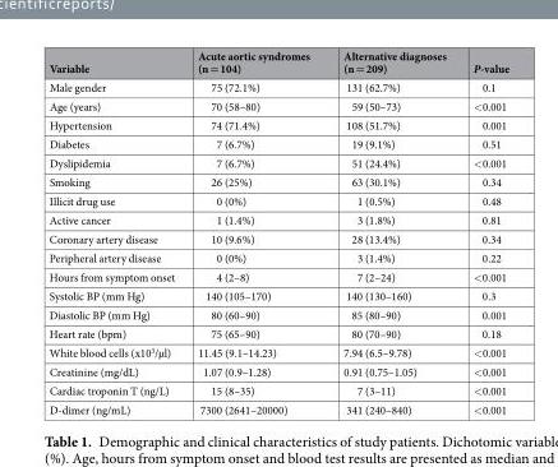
<table><thead><tr><td>Variable</td><td>Acute aortic syndromes (n = 104)</td><td>Alternative diagnoses (n = 209)</td><td>P-value</td></tr></thead><tbody><tr><td>Male gender</td><td>75 (72.1%)</td><td>131 (62.7%)</td><td>0.1</td></tr><tr><td>Age (years)</td><td>70 (58–80)</td><td>59 (50–73)</td><td>&lt;0.001</td></tr><tr><td>Hypertension</td><td>74 (71.4%)</td><td>108 (51.7%)</td><td>0.001</td></tr><tr><td>Diabetes</td><td>7 (6.7%)</td><td>19 (9.1%)</td><td>0.51</td></tr><tr><td>Dyslipidemia</td><td>7 (6.7%)</td><td>51 (24.4%)</td><td>&lt;0.001</td></tr><tr><td>Smoking</td><td>26 (25%)</td><td>63 (30.1%)</td><td>0.34</td></tr><tr><td>Illicit drug use</td><td>0 (0%)</td><td>1 (0.5%)</td><td>0.48</td></tr><tr><td>Active cancer</td><td>1 (1.4%)</td><td>3 (1.8%)</td><td>0.81</td></tr><tr><td>Coronary artery disease</td><td>10 (9.6%)</td><td>28 (13.4%)</td><td>0.34</td></tr><tr><td>Peripheral artery disease</td><td>0 (0%)</td><td>3 (1.4%)</td><td>0.22</td></tr><tr><td>Hours from symptom onset</td><td>4 (2–8)</td><td>7 (2–24)</td><td>&lt;0.001</td></tr><tr><td>Systolic BP (mm Hg)</td><td>140 (105–170)</td><td>140 (130–160)</td><td>0.3</td></tr><tr><td>Diastolic BP (mm Hg)</td><td>80 (60–90)</td><td>85 (80–90)</td><td>0.001</td></tr><tr><td>Heart rate (bpm)</td><td>75 (65–90)</td><td>80 (70–90)</td><td>0.18</td></tr><tr><td>White blood cells (x10<sup>3</sup>/µl)</td><td>11.45 (9.1–14.23)</td><td>7.94 (6.5–9.78)</td><td>&lt;0.001</td></tr><tr><td>Creatinine (mg/dL)</td><td>1.07 (0.9–1.28)</td><td>0.91 (0.75–1.05)</td><td>&lt;0.001</td></tr><tr><td>Cardiac troponin T (ng/L)</td><td>15 (8–35)</td><td>7 (3–11)</td><td>&lt;0.001</td></tr><tr><td>D-dimer (ng/mL)</td><td>7300 (2641–20000)</td><td>341 (240–840)</td><td>&lt;0.001</td></tr></tbody></table>